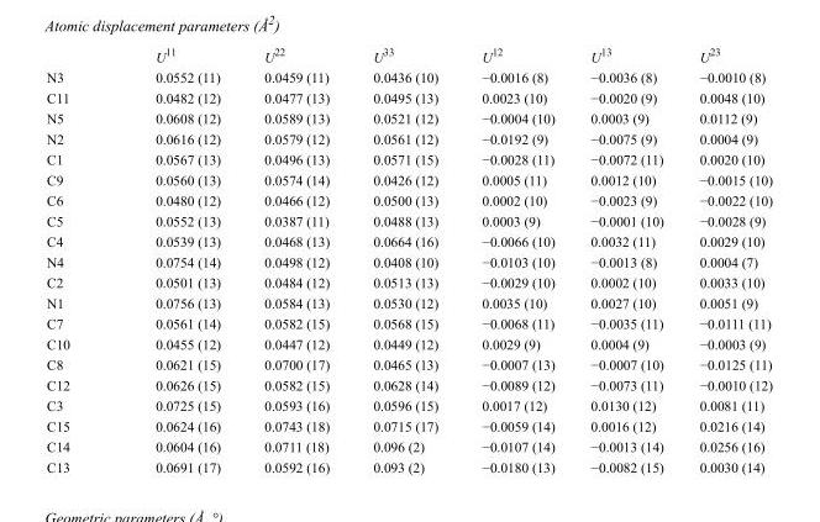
<table><thead><tr><td></td><td>U<sup>11</sup></td><td>U<sup>22</sup></td><td>U<sup>33</sup></td><td>U<sup>12</sup></td><td>U<sup>13</sup></td><td>U<sup>23</sup></td></tr></thead><tbody><tr><td>N3</td><td>0.0552 (11)</td><td>0.0459 (11)</td><td>0.0436 (10)</td><td>−0.0016 (8)</td><td>−0.0036 (8)</td><td>−0.0010 (8)</td></tr><tr><td>C11</td><td>0.0482 (12)</td><td>0.0477 (13)</td><td>0.0495 (13)</td><td>0.0023 (10)</td><td>−0.0020 (9)</td><td>0.0048 (10)</td></tr><tr><td>N5</td><td>0.0608 (12)</td><td>0.0589 (13)</td><td>0.0521 (12)</td><td>−0.0004 (10)</td><td>0.0003 (9)</td><td>0.0112 (9)</td></tr><tr><td>N2</td><td>0.0616 (12)</td><td>0.0579 (12)</td><td>0.0561 (12)</td><td>−0.0192 (9)</td><td>−0.0075 (9)</td><td>0.0004 (9)</td></tr><tr><td>C1</td><td>0.0567 (13)</td><td>0.0496 (13)</td><td>0.0571 (15)</td><td>−0.0028 (11)</td><td>−0.0072 (11)</td><td>0.0020 (10)</td></tr><tr><td>C9</td><td>0.0560 (13)</td><td>0.0574 (14)</td><td>0.0426 (12)</td><td>0.0005 (11)</td><td>0.0012 (10)</td><td>−0.0015 (10)</td></tr><tr><td>C6</td><td>0.0480 (12)</td><td>0.0466 (12)</td><td>0.0500 (13)</td><td>0.0002 (10)</td><td>−0.0023 (9)</td><td>−0.0022 (10)</td></tr><tr><td>C5</td><td>0.0552 (13)</td><td>0.0387 (11)</td><td>0.0488 (13)</td><td>0.0003 (9)</td><td>−0.0001 (10)</td><td>−0.0028 (9)</td></tr><tr><td>C4</td><td>0.0539 (13)</td><td>0.0468 (13)</td><td>0.0664 (16)</td><td>−0.0066 (10)</td><td>0.0032 (11)</td><td>0.0029 (10)</td></tr><tr><td>N4</td><td>0.0754 (14)</td><td>0.0498 (12)</td><td>0.0408 (10)</td><td>−0.0103 (10)</td><td>−0.0013 (8)</td><td>0.0004 (7)</td></tr><tr><td>C2</td><td>0.0501 (13)</td><td>0.0484 (12)</td><td>0.0513 (13)</td><td>−0.0029 (10)</td><td>0.0002 (10)</td><td>0.0033 (10)</td></tr><tr><td>N1</td><td>0.0756 (13)</td><td>0.0584 (13)</td><td>0.0530 (12)</td><td>0.0035 (10)</td><td>0.0027 (10)</td><td>0.0051 (9)</td></tr><tr><td>C7</td><td>0.0561 (14)</td><td>0.0582 (15)</td><td>0.0568 (15)</td><td>−0.0068 (11)</td><td>−0.0035 (11)</td><td>−0.0111 (11)</td></tr><tr><td>C10</td><td>0.0455 (12)</td><td>0.0447 (12)</td><td>0.0449 (12)</td><td>0.0029 (9)</td><td>0.0004 (9)</td><td>−0.0003 (9)</td></tr><tr><td>C8</td><td>0.0621 (15)</td><td>0.0700 (17)</td><td>0.0465 (13)</td><td>−0.0007 (13)</td><td>−0.0007 (10)</td><td>−0.0125 (11)</td></tr><tr><td>C12</td><td>0.0626 (15)</td><td>0.0582 (15)</td><td>0.0628 (14)</td><td>−0.0089 (12)</td><td>−0.0073 (11)</td><td>−0.0010 (12)</td></tr><tr><td>C3</td><td>0.0725 (15)</td><td>0.0593 (16)</td><td>0.0596 (15)</td><td>0.0017 (12)</td><td>0.0130 (12)</td><td>0.0081 (11)</td></tr><tr><td>C15</td><td>0.0624 (16)</td><td>0.0743 (18)</td><td>0.0715 (17)</td><td>−0.0059 (14)</td><td>0.0016 (12)</td><td>0.0216 (14)</td></tr><tr><td>C14</td><td>0.0604 (16)</td><td>0.0711 (18)</td><td>0.096 (2)</td><td>−0.0107 (14)</td><td>−0.0013 (14)</td><td>0.0256 (16)</td></tr><tr><td>C13</td><td>0.0691 (17)</td><td>0.0592 (16)</td><td>0.093 (2)</td><td>−0.0180 (13)</td><td>−0.0082 (15)</td><td>0.0030 (14)</td></tr></tbody></table>